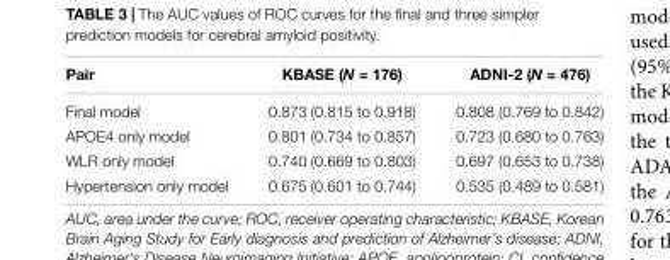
<table><thead><tr><td>Pair</td><td>KBASE (N = 176)</td><td>ADNI-2 (N = 476)</td></tr></thead><tbody><tr><td>Final model</td><td>0.873 (0.815 to 0.918)</td><td>0.808 (0.769 to 0.842)</td></tr><tr><td>APOE4 only model</td><td>0.801 (0.734 to 0.857)</td><td>0.723 (0.680 to 0.763)</td></tr><tr><td>WLR only model</td><td>0.740 (0.669 to 0.803)</td><td>0.697 (0.653 to 0.738)</td></tr><tr><td>Hypertension only model</td><td>0.675 (0.601 to 0.744)</td><td>0.535 (0.489 to 0.581)</td></tr></tbody></table>